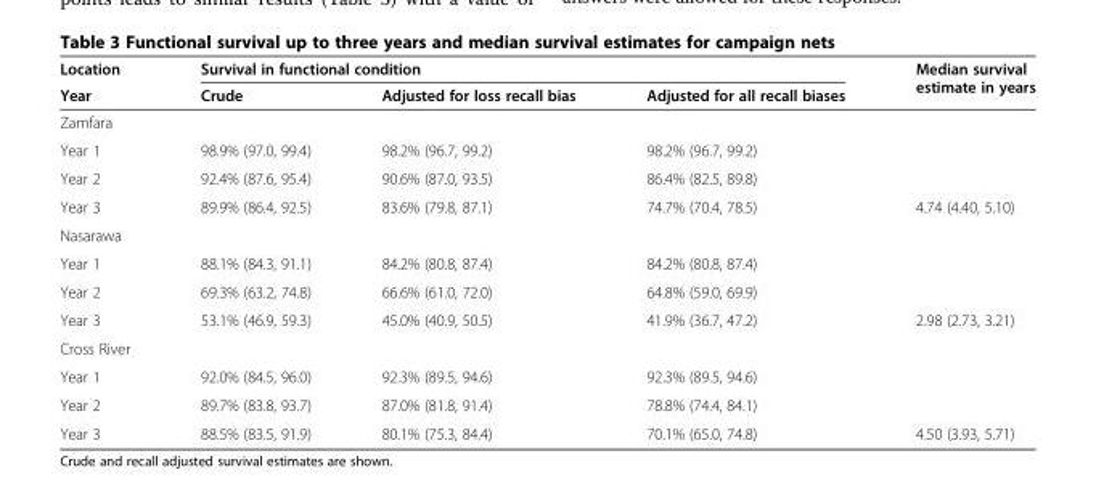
<table><thead><tr><td rowspan="2">Location Year</td><td colspan="3">Survival in functional condition</td><td rowspan="2">Median survival estimate in years</td></tr><tr><td>Crude</td><td>Adjusted for loss recall bias</td><td>Adjusted for all recall biases</td></tr></thead><tbody><tr><td colspan="5">Zamfara</td></tr><tr><td>Year 1</td><td>98.9% (97.0, 99.4)</td><td>98.2% (96.7, 99.2)</td><td>98.2% (96.7, 99.2)</td><td></td></tr><tr><td>Year 2</td><td>92.4% (87.6, 95.4)</td><td>90.6% (87.0, 93.5)</td><td>86.4% (82.5, 89.8)</td><td></td></tr><tr><td>Year 3</td><td>89.9% (86.4, 92.5)</td><td>83.6% (79.8, 87.1)</td><td>74.7% (70.4, 78.5)</td><td>4.74 (4.40, 5.10)</td></tr><tr><td colspan="5">Nasarawa</td></tr><tr><td>Year 1</td><td>88.1% (84.3, 91.1)</td><td>84.2% (80.8, 87.4)</td><td>84.2% (80.8, 87.4)</td><td></td></tr><tr><td>Year 2</td><td>69.3% (63.2, 74.8)</td><td>66.6% (61.0, 72.0)</td><td>64.8% (59.0, 69.9)</td><td></td></tr><tr><td>Year 3</td><td>53.1% (46.9, 59.3)</td><td>45.0% (40.9, 50.5)</td><td>41.9% (36.7, 47.2)</td><td>2.98 (2.73, 3.21)</td></tr><tr><td colspan="5">Cross River</td></tr><tr><td>Year 1</td><td>92.0% (84.5, 96.0)</td><td>92.3% (89.5, 94.6)</td><td>92.3% (89.5, 94.6)</td><td></td></tr><tr><td>Year 2</td><td>89.7% (83.8, 93.7)</td><td>87.0% (81.8, 91.4)</td><td>78.8% (74.4, 84.1)</td><td></td></tr><tr><td>Year 3</td><td>88.5% (83.5, 91.9)</td><td>80.1% (75.3, 84.4)</td><td>70.1% (65.0, 74.8)</td><td>4.50 (3.93, 5.71)</td></tr></tbody></table>